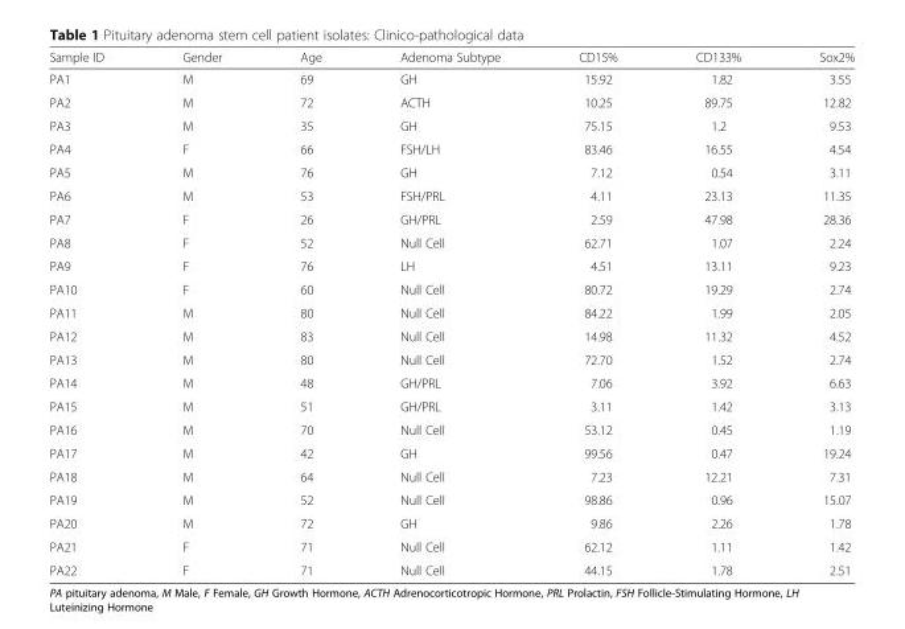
<table><thead><tr><td>Sample ID</td><td>Gender</td><td>Age</td><td>Adenoma Subtype</td><td>CD15%</td><td>CD133%</td><td>Sox2%</td></tr></thead><tbody><tr><td>PA1</td><td>M</td><td>69</td><td>GH</td><td>15.92</td><td>1.82</td><td>3.55</td></tr><tr><td>PA2</td><td>M</td><td>72</td><td>ACTH</td><td>10.25</td><td>89.75</td><td>12.82</td></tr><tr><td>PA3</td><td>M</td><td>35</td><td>GH</td><td>75.15</td><td>1.2</td><td>9.53</td></tr><tr><td>PA4</td><td>F</td><td>66</td><td>FSH/LH</td><td>83.46</td><td>16.55</td><td>4.54</td></tr><tr><td>PA5</td><td>M</td><td>76</td><td>GH</td><td>7.12</td><td>0.54</td><td>3.11</td></tr><tr><td>PA6</td><td>M</td><td>53</td><td>FSH/PRL</td><td>4.11</td><td>23.13</td><td>11.35</td></tr><tr><td>PA7</td><td>F</td><td>26</td><td>GH/PRL</td><td>2.59</td><td>47.98</td><td>28.36</td></tr><tr><td>PA8</td><td>F</td><td>52</td><td>Null Cell</td><td>62.71</td><td>1.07</td><td>2.24</td></tr><tr><td>PA9</td><td>F</td><td>76</td><td>LH</td><td>4.51</td><td>13.11</td><td>9.23</td></tr><tr><td>PA10</td><td>F</td><td>60</td><td>Null Cell</td><td>80.72</td><td>19.29</td><td>2.74</td></tr><tr><td>PA11</td><td>M</td><td>80</td><td>Null Cell</td><td>84.22</td><td>1.99</td><td>2.05</td></tr><tr><td>PA12</td><td>M</td><td>83</td><td>Null Cell</td><td>14.98</td><td>11.32</td><td>4.52</td></tr><tr><td>PA13</td><td>M</td><td>80</td><td>Null Cell</td><td>72.70</td><td>1.52</td><td>2.74</td></tr><tr><td>PA14</td><td>M</td><td>48</td><td>GH/PRL</td><td>7.06</td><td>3.92</td><td>6.63</td></tr><tr><td>PA15</td><td>M</td><td>51</td><td>GH/PRL</td><td>3.11</td><td>1.42</td><td>3.13</td></tr><tr><td>PA16</td><td>M</td><td>70</td><td>Null Cell</td><td>53.12</td><td>0.45</td><td>1.19</td></tr><tr><td>PA17</td><td>M</td><td>42</td><td>GH</td><td>99.56</td><td>0.47</td><td>19.24</td></tr><tr><td>PA18</td><td>M</td><td>64</td><td>Null Cell</td><td>7.23</td><td>12.21</td><td>7.31</td></tr><tr><td>PA19</td><td>M</td><td>52</td><td>Null Cell</td><td>98.86</td><td>0.96</td><td>15.07</td></tr><tr><td>PA20</td><td>M</td><td>72</td><td>GH</td><td>9.86</td><td>2.26</td><td>1.78</td></tr><tr><td>PA21</td><td>F</td><td>71</td><td>Null Cell</td><td>62.12</td><td>1.11</td><td>1.42</td></tr><tr><td>PA22</td><td>F</td><td>71</td><td>Null Cell</td><td>44.15</td><td>1.78</td><td>2.51</td></tr></tbody></table>